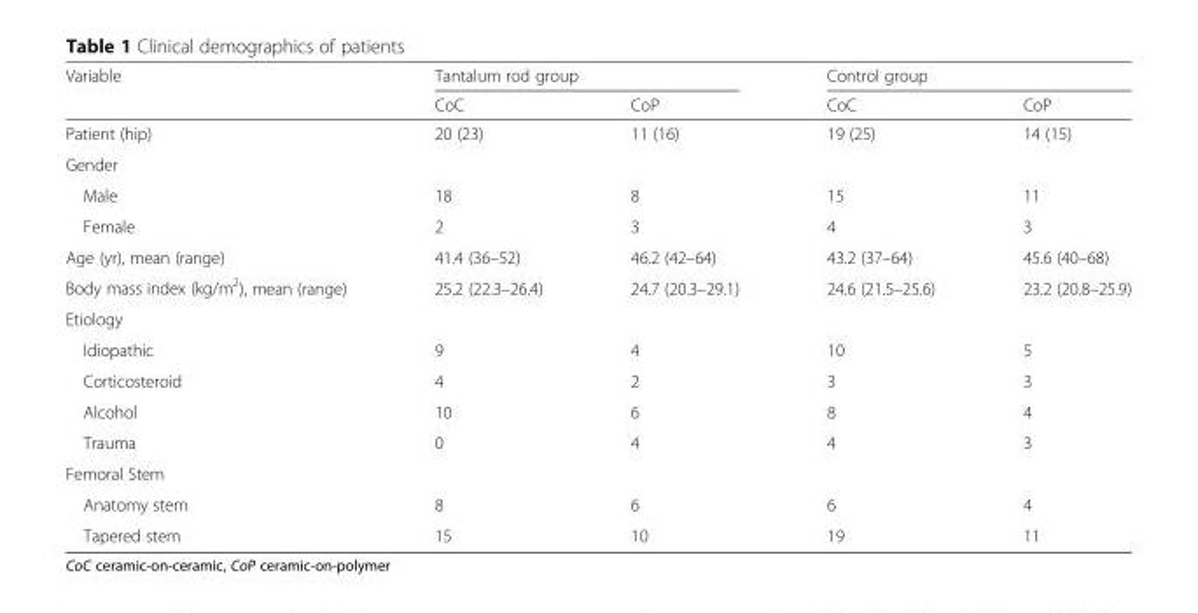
<table><thead><tr><td rowspan="2">Variable</td><td colspan="2">Tantalum rod group</td><td colspan="2">Control group</td></tr><tr><td>CoC</td><td>CoP</td><td>CoC</td><td>CoP</td></tr></thead><tbody><tr><td>Patient (hip)</td><td>20 (23)</td><td>11 (16)</td><td>19 (25)</td><td>14 (15)</td></tr><tr><td colspan="5">Gender</td></tr><tr><td>Male</td><td>18</td><td>8</td><td>15</td><td>11</td></tr><tr><td>Female</td><td>2</td><td>3</td><td>4</td><td>3</td></tr><tr><td>Age (yr), mean (range)</td><td>41.4 (36–52)</td><td>46.2 (42–64)</td><td>43.2 (37–64)</td><td>45.6 (40–68)</td></tr><tr><td>Body mass index (kg/m<sup>2</sup>), mean (range)</td><td>25.2 (22.3–26.4)</td><td>24.7 (20.3–29.1)</td><td>24.6 (21.5–25.6)</td><td>23.2 (20.8–25.9)</td></tr><tr><td colspan="5">Etiology</td></tr><tr><td>Idiopathic</td><td>9</td><td>4</td><td>10</td><td>5</td></tr><tr><td>Corticosteroid</td><td>4</td><td>2</td><td>3</td><td>3</td></tr><tr><td>Alcohol</td><td>10</td><td>6</td><td>8</td><td>4</td></tr><tr><td>Trauma</td><td>0</td><td>4</td><td>4</td><td>3</td></tr><tr><td colspan="5">Femoral Stem</td></tr><tr><td>Anatomy stem</td><td>8</td><td>6</td><td>6</td><td>4</td></tr><tr><td>Tapered stem</td><td>15</td><td>10</td><td>19</td><td>11</td></tr></tbody></table>